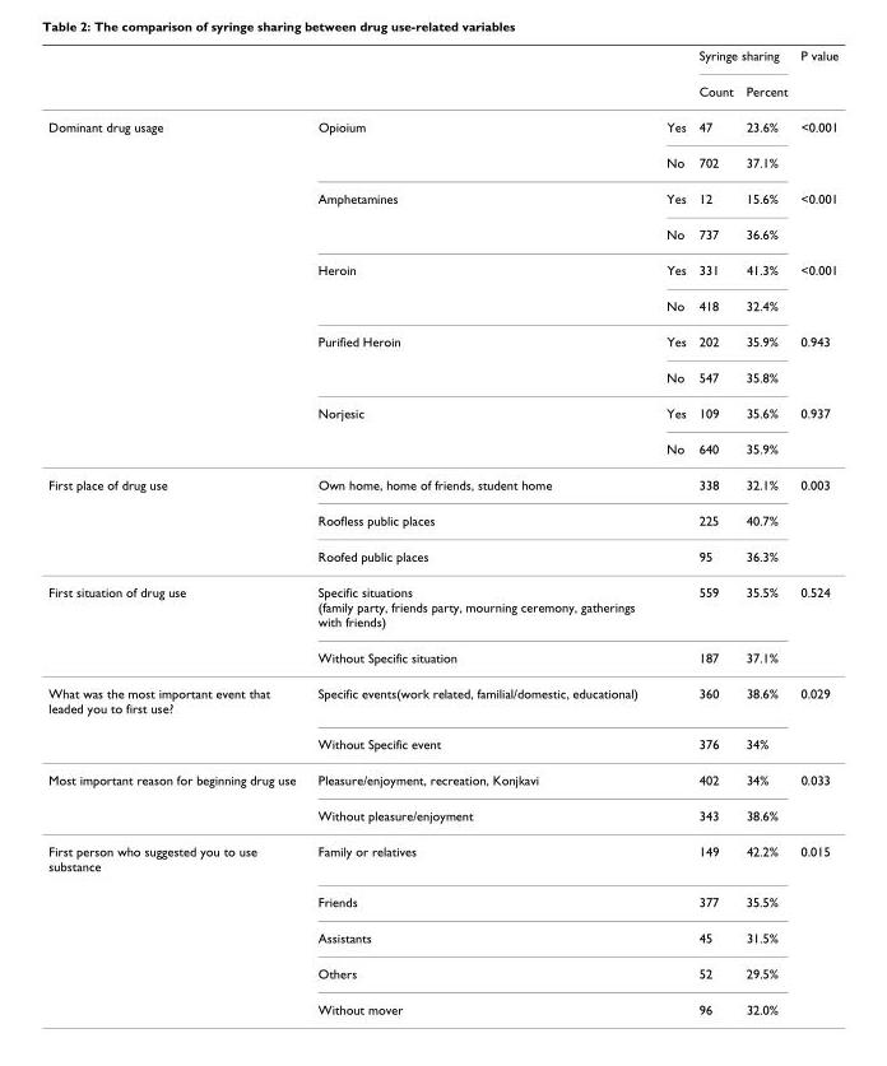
<table><thead><tr><td rowspan="2"></td><td rowspan="2"></td><td rowspan="2"></td><td colspan="2">Syringe sharing</td><td rowspan="2">P value</td></tr><tr><td>Count</td><td>Percent</td></tr></thead><tbody><tr><td rowspan="10">Dominant drug usage</td><td>Opioium</td><td>Yes</td><td>47</td><td>23.6%</td><td>&lt;0.001</td></tr><tr><td></td><td>No</td><td>702</td><td>37.1%</td><td></td></tr><tr><td>Amphetamines</td><td>Yes</td><td>12</td><td>15.6%</td><td>&lt;0.001</td></tr><tr><td></td><td>No</td><td>737</td><td>36.6%</td><td></td></tr><tr><td>Heroin</td><td>Yes</td><td>331</td><td>41.3%</td><td>&lt;0.001</td></tr><tr><td></td><td>No</td><td>418</td><td>32.4%</td><td></td></tr><tr><td>Purified Heroin</td><td>Yes</td><td>202</td><td>35.9%</td><td>0.943</td></tr><tr><td></td><td>No</td><td>547</td><td>35.8%</td><td></td></tr><tr><td>Norjesic</td><td>Yes</td><td>109</td><td>35.6%</td><td>0.937</td></tr><tr><td></td><td>No</td><td>640</td><td>35.9%</td><td></td></tr><tr><td rowspan="3">First place of drug use</td><td>Own home, home of friends, student home</td><td></td><td>338</td><td>32.1%</td><td>0.003</td></tr><tr><td>Roofless public places</td><td></td><td>225</td><td>40.7%</td><td></td></tr><tr><td>Roofed public places</td><td></td><td>95</td><td>36.3%</td><td></td></tr><tr><td rowspan="2">First situation of drug use</td><td>Specific situations (family party, friends party, mourning ceremony, gatherings with friends)</td><td></td><td>559</td><td>35.5%</td><td>0.524</td></tr><tr><td>Without Specific situation</td><td></td><td>187</td><td>37.1%</td><td></td></tr><tr><td rowspan="2">What was the most important event that leaded you to first use?</td><td>Specific events(work related, familial/domestic, educational)</td><td></td><td>360</td><td>38.6%</td><td>0.029</td></tr><tr><td>Without Specific event</td><td></td><td>376</td><td>34%</td><td></td></tr><tr><td rowspan="2">Most important reason for beginning drug use</td><td>Pleasure/enjoyment, recreation, Konjkavi</td><td></td><td>402</td><td>34%</td><td>0.033</td></tr><tr><td>Without pleasure/enjoyment</td><td></td><td>343</td><td>38.6%</td><td></td></tr><tr><td rowspan="5">First person who suggested you to use substance</td><td>Family or relatives</td><td></td><td>149</td><td>42.2%</td><td>0.015</td></tr><tr><td>Friends</td><td></td><td>377</td><td>35.5%</td><td></td></tr><tr><td>Assistants</td><td></td><td>45</td><td>31.5%</td><td></td></tr><tr><td>Others</td><td></td><td>52</td><td>29.5%</td><td></td></tr><tr><td>Without mover</td><td></td><td>96</td><td>32.0%</td><td></td></tr></tbody></table>